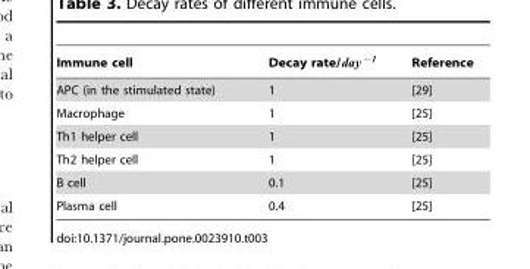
<table><thead><tr><td>Immune cell</td><td>Decay rate/day{1</td><td>Reference</td></tr></thead><tbody><tr><td>APC (in the stimulated state)</td><td>1</td><td>[29]</td></tr><tr><td>Macrophage</td><td>1</td><td>[25]</td></tr><tr><td>Th1 helper cell</td><td>1</td><td>[25]</td></tr><tr><td>Th2 helper cell</td><td>1</td><td>[25]</td></tr><tr><td>B cell</td><td>0.1</td><td>[25]</td></tr><tr><td>Plasma cell</td><td>0.4</td><td>[25]</td></tr></tbody></table>